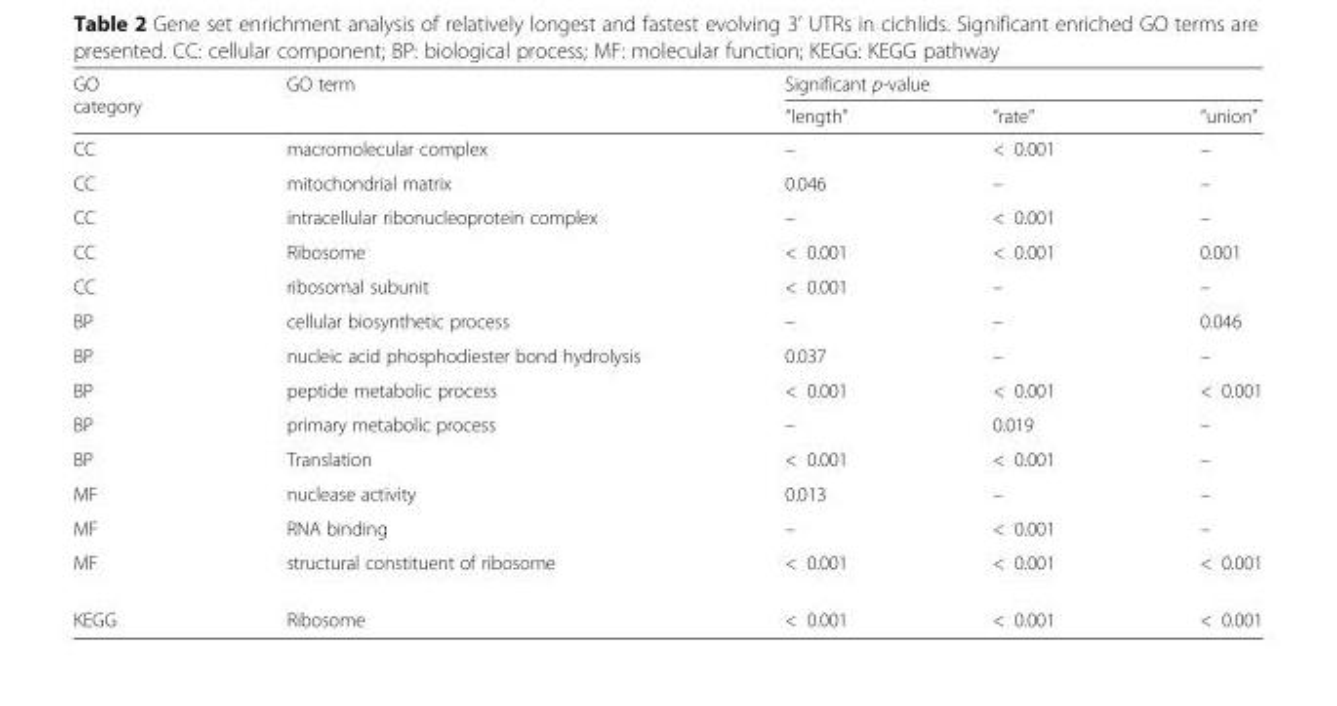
<table><thead><tr><td rowspan="2">GO category</td><td rowspan="2">GO term</td><td colspan="3">Significant p-value</td></tr><tr><td>“length”</td><td>“rate”</td><td>“union”</td></tr></thead><tbody><tr><td>CC</td><td>macromolecular complex</td><td>–</td><td>&lt; 0.001</td><td>–</td></tr><tr><td>CC</td><td>mitochondrial matrix</td><td>0.046</td><td>–</td><td>–</td></tr><tr><td>CC</td><td>intracellular ribonucleoprotein complex</td><td>–</td><td>&lt; 0.001</td><td>–</td></tr><tr><td>CC</td><td>Ribosome</td><td>&lt; 0.001</td><td>&lt; 0.001</td><td>0.001</td></tr><tr><td>CC</td><td>ribosomal subunit</td><td>&lt; 0.001</td><td>–</td><td>–</td></tr><tr><td>BP</td><td>cellular biosynthetic process</td><td>–</td><td>–</td><td>0.046</td></tr><tr><td>BP</td><td>nucleic acid phosphodiester bond hydrolysis</td><td>0.037</td><td>–</td><td>–</td></tr><tr><td>BP</td><td>peptide metabolic process</td><td>&lt; 0.001</td><td>&lt; 0.001</td><td>&lt; 0.001</td></tr><tr><td>BP</td><td>primary metabolic process</td><td>–</td><td>0.019</td><td>–</td></tr><tr><td>BP</td><td>Translation</td><td>&lt; 0.001</td><td>&lt; 0.001</td><td>–</td></tr><tr><td>MF</td><td>nuclease activity</td><td>0.013</td><td>–</td><td>–</td></tr><tr><td>MF</td><td>RNA binding</td><td>–</td><td>&lt; 0.001</td><td>–</td></tr><tr><td>MF</td><td>structural constituent of ribosome</td><td>&lt; 0.001</td><td>&lt; 0.001</td><td>&lt; 0.001</td></tr><tr><td>KEGG</td><td>Ribosome</td><td>&lt; 0.001</td><td>&lt; 0.001</td><td>&lt; 0.001</td></tr></tbody></table>